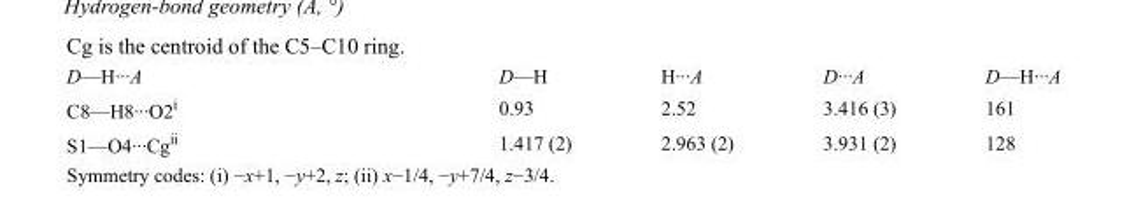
<table><tbody><tr><td>D—H···A</td><td>D—H</td><td>H···A</td><td>D···A</td><td>D—H···A</td></tr><tr><td>C8—H8···O2<sup>i</sup></td><td>0.93</td><td>2.52</td><td>3.416 (3)</td><td>161</td></tr><tr><td>S1—O4···Cg<sup>ii</sup></td><td>1.417 (2)</td><td>2.963 (2)</td><td>3.931 (2)</td><td>128</td></tr></tbody></table>